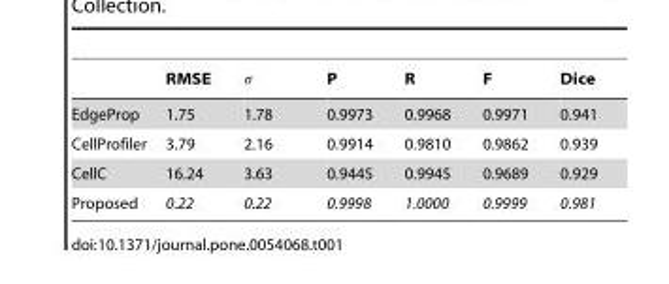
<table><thead><tr><td></td><td>RMSE</td><td>s</td><td>P</td><td>R</td><td>F</td><td>Dice</td></tr></thead><tbody><tr><td>EdgeProp</td><td>1.75</td><td>1.78</td><td>0.9973</td><td>0.9968</td><td>0.9971</td><td>0.941</td></tr><tr><td>CellProfiler</td><td>3.79</td><td>2.16</td><td>0.9914</td><td>0.9810</td><td>0.9862</td><td>0.939</td></tr><tr><td>CellC</td><td>16.24</td><td>3.63</td><td>0.9445</td><td>0.9945</td><td>0.9689</td><td>0.929</td></tr><tr><td>Proposed</td><td>0.22</td><td>0.22</td><td>0.9998</td><td>1.0000</td><td>0.9999</td><td>0.981</td></tr></tbody></table>